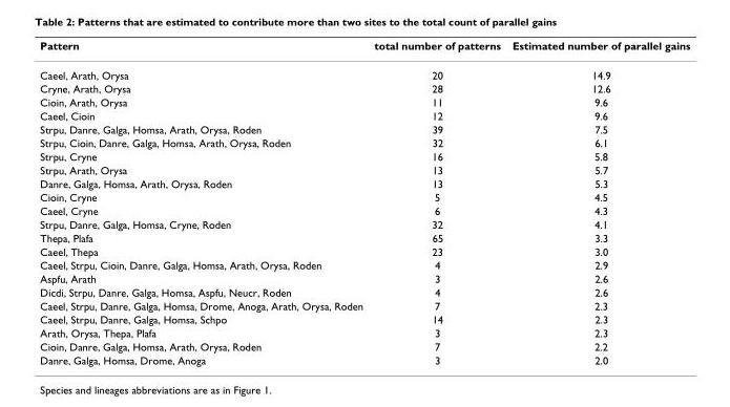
<table><thead><tr><td>Pattern</td><td>total number of patterns</td><td>Estimated number of parallel gains</td></tr></thead><tbody><tr><td>Caeel, Arath, Orysa</td><td>20</td><td>14.9</td></tr><tr><td>Cryne, Arath, Orysa</td><td>28</td><td>12.6</td></tr><tr><td>Cioin, Arath, Orysa</td><td>11</td><td>9.6</td></tr><tr><td>Caeel, Cioin</td><td>12</td><td>9.6</td></tr><tr><td>Strpu, Danre, Galga, Homsa, Arath, Orysa, Roden</td><td>39</td><td>7.5</td></tr><tr><td>Strpu, Cioin, Danre, Galga, Homsa, Arath, Orysa, Roden</td><td>32</td><td>6.1</td></tr><tr><td>Strpu, Cryne</td><td>16</td><td>5.8</td></tr><tr><td>Strpu, Arath, Orysa</td><td>13</td><td>5.7</td></tr><tr><td>Danre, Galga, Homsa, Arath, Orysa, Roden</td><td>13</td><td>5.3</td></tr><tr><td>Cioin, Cryne</td><td>5</td><td>4.5</td></tr><tr><td>Caeel, Cryne</td><td>6</td><td>4.3</td></tr><tr><td>Strpu, Danre, Galga, Homsa, Cryne, Roden</td><td>32</td><td>4.1</td></tr><tr><td>Thepa, Plafa</td><td>65</td><td>3.3</td></tr><tr><td>Caeel, Thepa</td><td>23</td><td>3.0</td></tr><tr><td>Caeel, Strpu, Cioin, Danre, Galga, Homsa, Arath, Orysa, Roden</td><td>4</td><td>2.9</td></tr><tr><td>Aspfu, Arath</td><td>3</td><td>2.6</td></tr><tr><td>Dicdi, Strpu, Danre, Galga, Homsa, Aspfu, Neucr, Roden</td><td>4</td><td>2.6</td></tr><tr><td>Caeel, Strpu, Danre, Galga, Homsa, Drome, Anoga, Arath, Orysa, Roden</td><td>7</td><td>2.3</td></tr><tr><td>Caeel, Strpu, Danre, Galga, Homsa, Schpo</td><td>14</td><td>2.3</td></tr><tr><td>Arath, Orysa, Thepa, Plafa</td><td>3</td><td>2.3</td></tr><tr><td>Cioin, Danre, Galga, Homsa, Arath, Orysa, Roden</td><td>7</td><td>2.2</td></tr><tr><td>Danre, Galga, Homsa, Drome, Anoga</td><td>3</td><td>2.0</td></tr></tbody></table>